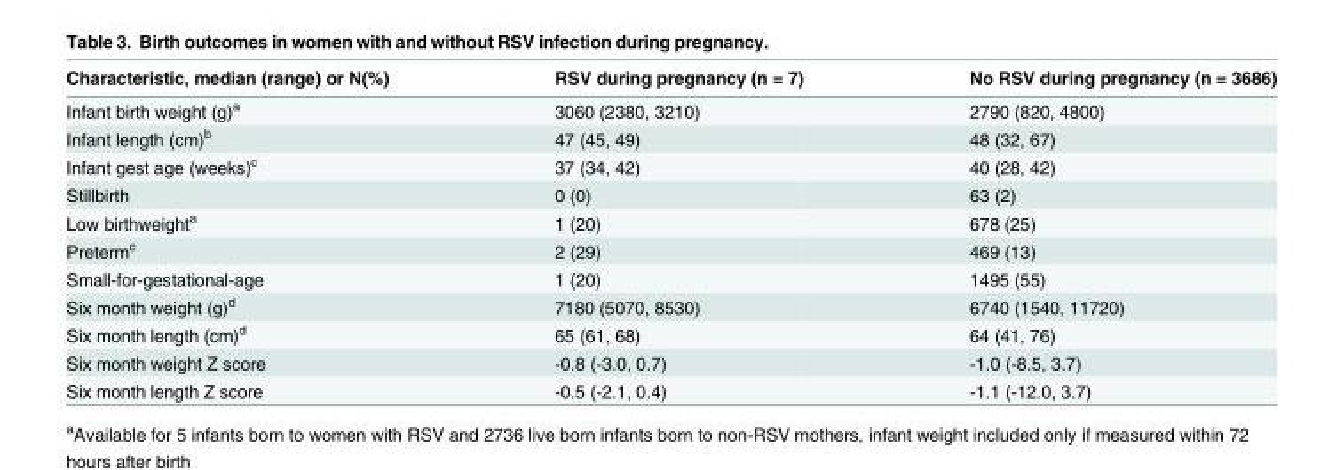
<table><thead><tr><td>Characteristic, median (range) or N(%)</td><td>RSV during pregnancy (n = 7)</td><td>No RSV during pregnancy (n = 3686)</td></tr></thead><tbody><tr><td>Infant birth weight (g)<sup>a</sup></td><td>3060 (2380, 3210)</td><td>2790 (820, 4800)</td></tr><tr><td>Infant length (cm)<sup>b</sup></td><td>47 (45, 49)</td><td>48 (32, 67)</td></tr><tr><td>Infant gest age (weeks)<sup>c</sup></td><td>37 (34, 42)</td><td>40 (28, 42)</td></tr><tr><td>Stillbirth</td><td>0 (0)</td><td>63 (2)</td></tr><tr><td>Low birthweight<sup>a</sup></td><td>1 (20)</td><td>678 (25)</td></tr><tr><td>Preterm<sup>c</sup></td><td>2 (29)</td><td>469 (13)</td></tr><tr><td>Small-for-gestational-age</td><td>1 (20)</td><td>1495 (55)</td></tr><tr><td>Six month weight (g)<sup>d</sup></td><td>7180 (5070, 8530)</td><td>6740 (1540, 11720)</td></tr><tr><td>Six month length (cm)<sup>d</sup></td><td>65 (61, 68)</td><td>64 (41, 76)</td></tr><tr><td>Six month weight Z score</td><td>-0.8 (-3.0, 0.7)</td><td>-1.0 (-8.5, 3.7)</td></tr><tr><td>Six month length Z score</td><td>-0.5 (-2.1, 0.4)</td><td>-1.1 (-12.0, 3.7)</td></tr></tbody></table>